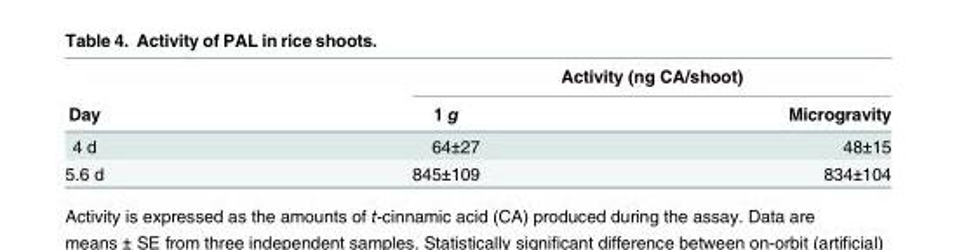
<table><thead><tr><td rowspan="2">Day</td><td colspan="2">Activity (ng CA/shoot)</td></tr><tr><td>1 g</td><td>Microgravity</td></tr></thead><tbody><tr><td>4 d</td><td>64±27</td><td>48±15</td></tr><tr><td>5.6 d</td><td>845±109</td><td>834±104</td></tr></tbody></table>